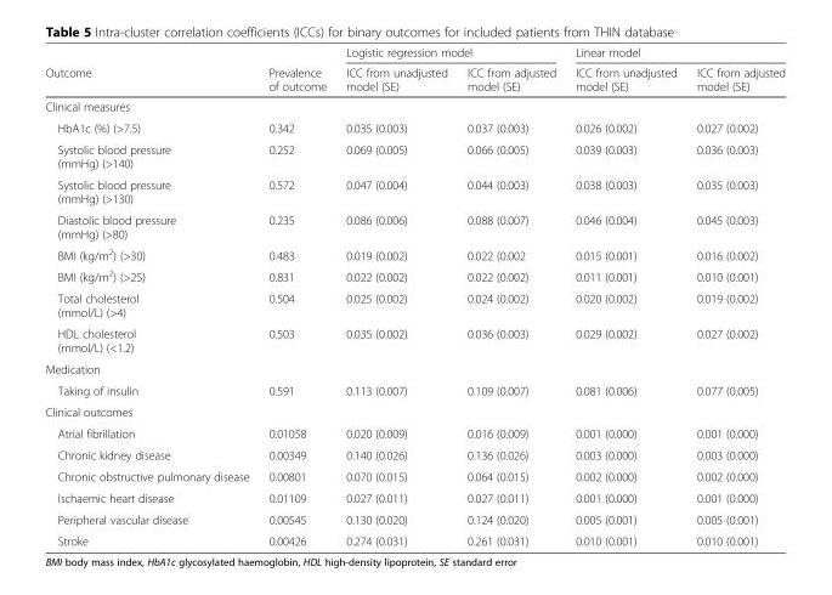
<table><thead><tr><td rowspan="2">Outcome</td><td rowspan="2">Prevalence of outcome</td><td colspan="2">Logistic regression model</td><td colspan="2">Linear model</td></tr><tr><td>ICC from unadjusted model (SE)</td><td>ICC from adjusted model (SE)</td><td>ICC from unadjusted model (SE)</td><td>ICC from adjusted model (SE)</td></tr></thead><tbody><tr><td colspan="6">Clinical measures</td></tr><tr><td>HbA1c (%) (&gt;7.5)</td><td>0.342</td><td>0.035 (0.003)</td><td>0.037 (0.003)</td><td>0.026 (0.002)</td><td>0.027 (0.002)</td></tr><tr><td>Systolic blood pressure (mmHg) (&gt;140)</td><td>0.252</td><td>0.069 (0.005)</td><td>0.066 (0.005)</td><td>0.039 (0.003)</td><td>0.036 (0.003)</td></tr><tr><td>Systolic blood pressure (mmHg) (&gt;130)</td><td>0.572</td><td>0.047 (0.004)</td><td>0.044 (0.003)</td><td>0.038 (0.003)</td><td>0.035 (0.003)</td></tr><tr><td>Diastolic blood pressure (mmHg) (&gt;80)</td><td>0.235</td><td>0.086 (0.006)</td><td>0.088 (0.007)</td><td>0.046 (0.004)</td><td>0.045 (0.003)</td></tr><tr><td>BMI (kg/m<sup>2</sup>) (&gt;30)</td><td>0.483</td><td>0.019 (0.002)</td><td>0.022 (0.002</td><td>0.015 (0.001)</td><td>0.016 (0.002)</td></tr><tr><td>BMI (kg/m<sup>2</sup>) (&gt;25)</td><td>0.831</td><td>0.022 (0.002)</td><td>0.022 (0.002)</td><td>0.011 (0.001)</td><td>0.010 (0.001)</td></tr><tr><td>Total cholesterol (mmol/L) (&gt;4)</td><td>0.504</td><td>0.025 (0.002)</td><td>0.024 (0.002)</td><td>0.020 (0.002)</td><td>0.019 (0.002)</td></tr><tr><td>HDL cholesterol (mmol/L) (&lt;1.2)</td><td>0.503</td><td>0.035 (0.002)</td><td>0.036 (0.003)</td><td>0.029 (0.002)</td><td>0.027 (0.002)</td></tr><tr><td colspan="6">Medication</td></tr><tr><td>Taking of insulin</td><td>0.591</td><td>0.113 (0.007)</td><td>0.109 (0.007)</td><td>0.081 (0.006)</td><td>0.077 (0.005)</td></tr><tr><td colspan="6">Clinical outcomes</td></tr><tr><td>Atrial fibrillation</td><td>0.01058</td><td>0.020 (0.009)</td><td>0.016 (0.009)</td><td>0.001 (0.000)</td><td>0.001 (0.000)</td></tr><tr><td>Chronic kidney disease</td><td>0.00349</td><td>0.140 (0.026)</td><td>0.136 (0.026)</td><td>0.003 (0.000)</td><td>0.003 (0.000)</td></tr><tr><td>Chronic obstructive pulmonary disease</td><td>0.00801</td><td>0.070 (0.015)</td><td>0.064 (0.015)</td><td>0.002 (0.000)</td><td>0.002 (0.000)</td></tr><tr><td>Ischaemic heart disease</td><td>0.01109</td><td>0.027 (0.011)</td><td>0.027 (0.011)</td><td>0.001 (0.000)</td><td>0.001 (0.000)</td></tr><tr><td>Peripheral vascular disease</td><td>0.00545</td><td>0.130 (0.020)</td><td>0.124 (0.020)</td><td>0.005 (0.001)</td><td>0.005 (0.001)</td></tr><tr><td>Stroke</td><td>0.00426</td><td>0.274 (0.031)</td><td>0.261 (0.031)</td><td>0.010 (0.001)</td><td>0.010 (0.001)</td></tr></tbody></table>